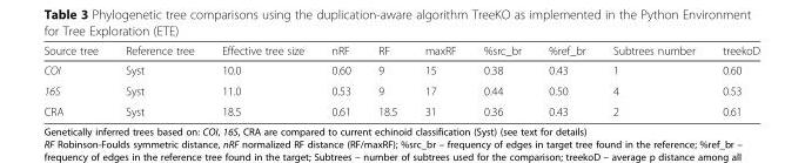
<table><thead><tr><td>Source tree</td><td>Reference tree</td><td>Effective tree size</td><td>nRF</td><td>RF</td><td>maxRF</td><td>%src_br</td><td>%ref_br</td><td>Subtrees number</td><td>treekoD</td></tr></thead><tbody><tr><td>COI</td><td>Syst</td><td>10.0</td><td>0.60</td><td>9</td><td>15</td><td>0.38</td><td>0.43</td><td>1</td><td>0.60</td></tr><tr><td>16S</td><td>Syst</td><td>11.0</td><td>0.53</td><td>9</td><td>17</td><td>0.44</td><td>0.50</td><td>4</td><td>0.53</td></tr><tr><td>CRA</td><td>Syst</td><td>18.5</td><td>0.61</td><td>18.5</td><td>31</td><td>0.36</td><td>0.43</td><td>2</td><td>0.61</td></tr></tbody></table>